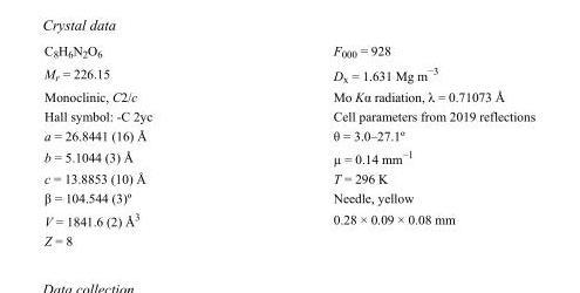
<table><tbody><tr><td>C<sub>8</sub>H<sub>6</sub>N<sub>2</sub>O<sub>6</sub></td><td>F000 = 928</td></tr><tr><td>M<sub>r</sub> = 226.15</td><td>D<sub>x</sub> = 1.631 Mg m<sup>−3</sup></td></tr><tr><td>Monoclinic, C2/c</td><td>Mo Kα radiation, λ = 0.71073 Å</td></tr><tr><td>Hall symbol: -C 2yc</td><td>Cell parameters from 2019 reflections</td></tr><tr><td>a = 26.8441 (16) Å</td><td>θ = 3.0–27.1º</td></tr><tr><td>b = 5.1044 (3) Å</td><td>µ = 0.14 mm<sup>−1</sup></td></tr><tr><td>c = 13.8853 (10) Å</td><td>T = 296 K</td></tr><tr><td>β = 104.544 (3)º</td><td>Needle, yellow</td></tr><tr><td>V = 1841.6 (2) Å<sup>3</sup></td><td>0.28 × 0.09 × 0.08 mm</td></tr><tr><td>Z = 8</td><td></td></tr></tbody></table>